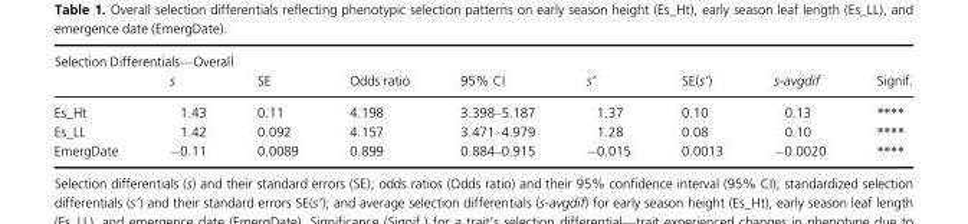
<table><thead><tr><td colspan="9">Selection Differentials—Overall</td></tr><tr><td></td><td>s</td><td>SE</td><td>Odds ratio</td><td>95% CI</td><td>s’</td><td>SE(s’)</td><td>s-avgdif</td><td>Signif.</td></tr></thead><tbody><tr><td>Es_Ht</td><td>1.43</td><td>0.11</td><td>4.198</td><td>3.398–5.187</td><td>1.37</td><td>0.10</td><td>0.13</td><td>****</td></tr><tr><td>Es_LL</td><td>1.42</td><td>0.092</td><td>4.157</td><td>3.471–4.979</td><td>1.28</td><td>0.08</td><td>0.10</td><td>****</td></tr><tr><td>EmergDate</td><td>−0.11</td><td>0.0089</td><td>0.899</td><td>0.884–0.915</td><td>−0.015</td><td>0.0013</td><td>−0.0020</td><td>****</td></tr></tbody></table>